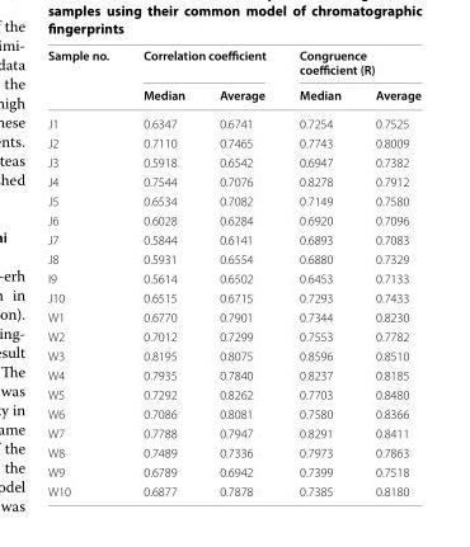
<table><thead><tr><td rowspan="2">Sample no.</td><td colspan="2">Correlation coefficient</td><td colspan="2">Congruence coefficient (R)</td></tr><tr><td>Median</td><td>Average</td><td>Median</td><td>Average</td></tr></thead><tbody><tr><td>J1</td><td>0.6347</td><td>0.6741</td><td>0.7254</td><td>0.7525</td></tr><tr><td>J2</td><td>0.7110</td><td>0.7465</td><td>0.7743</td><td>0.8009</td></tr><tr><td>J3</td><td>0.5918</td><td>0.6542</td><td>0.6947</td><td>0.7382</td></tr><tr><td>J4</td><td>0.7544</td><td>0.7076</td><td>0.8278</td><td>0.7912</td></tr><tr><td>J5</td><td>0.6534</td><td>0.7082</td><td>0.7149</td><td>0.7580</td></tr><tr><td>J6</td><td>0.6028</td><td>0.6284</td><td>0.6920</td><td>0.7096</td></tr><tr><td>J7</td><td>0.5844</td><td>0.6141</td><td>0.6893</td><td>0.7083</td></tr><tr><td>J8</td><td>0.5931</td><td>0.6554</td><td>0.6880</td><td>0.7329</td></tr><tr><td>I9</td><td>0.5614</td><td>0.6502</td><td>0.6453</td><td>0.7133</td></tr><tr><td>J10</td><td>0.6515</td><td>0.6715</td><td>0.7293</td><td>0.7433</td></tr><tr><td>W1</td><td>0.6770</td><td>0.7901</td><td>0.7344</td><td>0.8230</td></tr><tr><td>W2</td><td>0.7012</td><td>0.7299</td><td>0.7553</td><td>0.7782</td></tr><tr><td>W3</td><td>0.8195</td><td>0.8075</td><td>0.8596</td><td>0.8510</td></tr><tr><td>W4</td><td>0.7935</td><td>0.7840</td><td>0.8237</td><td>0.8185</td></tr><tr><td>W5</td><td>0.7292</td><td>0.8262</td><td>0.7703</td><td>0.8480</td></tr><tr><td>W6</td><td>0.7086</td><td>0.8081</td><td>0.7580</td><td>0.8366</td></tr><tr><td>W7</td><td>0.7788</td><td>0.7947</td><td>0.8291</td><td>0.8411</td></tr><tr><td>W8</td><td>0.7489</td><td>0.7336</td><td>0.7973</td><td>0.7863</td></tr><tr><td>W9</td><td>0.6789</td><td>0.6942</td><td>0.7399</td><td>0.7518</td></tr><tr><td>W10</td><td>0.6877</td><td>0.7878</td><td>0.7385</td><td>0.8180</td></tr></tbody></table>